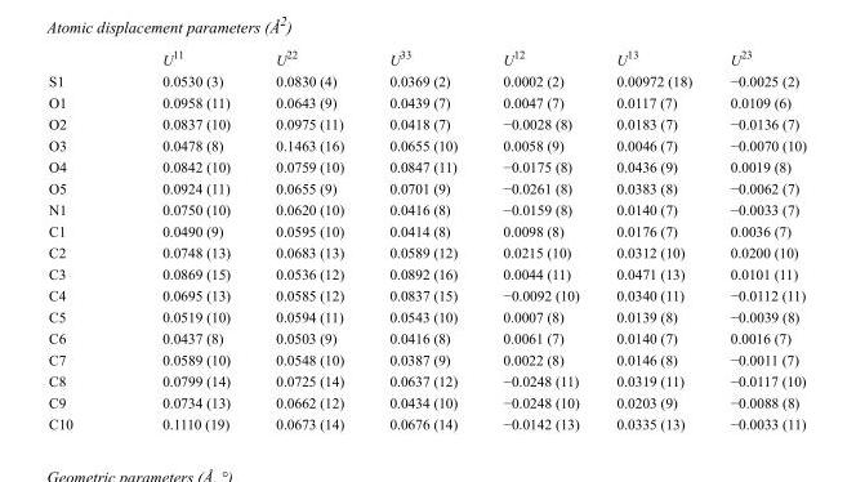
<table><thead><tr><td></td><td>U<sup>11</sup></td><td>U<sup>22</sup></td><td>U<sup>33</sup></td><td>U<sup>12</sup></td><td>U<sup>13</sup></td><td>U<sup>23</sup></td></tr></thead><tbody><tr><td>S1</td><td>0.0530 (3)</td><td>0.0830 (4)</td><td>0.0369 (2)</td><td>0.0002 (2)</td><td>0.00972 (18)</td><td>−0.0025 (2)</td></tr><tr><td>O1</td><td>0.0958 (11)</td><td>0.0643 (9)</td><td>0.0439 (7)</td><td>0.0047 (7)</td><td>0.0117 (7)</td><td>0.0109 (6)</td></tr><tr><td>O2</td><td>0.0837 (10)</td><td>0.0975 (11)</td><td>0.0418 (7)</td><td>−0.0028 (8)</td><td>0.0183 (7)</td><td>−0.0136 (7)</td></tr><tr><td>O3</td><td>0.0478 (8)</td><td>0.1463 (16)</td><td>0.0655 (10)</td><td>0.0058 (9)</td><td>0.0046 (7)</td><td>−0.0070 (10)</td></tr><tr><td>O4</td><td>0.0842 (10)</td><td>0.0759 (10)</td><td>0.0847 (11)</td><td>−0.0175 (8)</td><td>0.0436 (9)</td><td>0.0019 (8)</td></tr><tr><td>O5</td><td>0.0924 (11)</td><td>0.0655 (9)</td><td>0.0701 (9)</td><td>−0.0261 (8)</td><td>0.0383 (8)</td><td>−0.0062 (7)</td></tr><tr><td>N1</td><td>0.0750 (10)</td><td>0.0620 (10)</td><td>0.0416 (8)</td><td>−0.0159 (8)</td><td>0.0140 (7)</td><td>−0.0033 (7)</td></tr><tr><td>C1</td><td>0.0490 (9)</td><td>0.0595 (10)</td><td>0.0414 (8)</td><td>0.0098 (8)</td><td>0.0176 (7)</td><td>0.0036 (7)</td></tr><tr><td>C2</td><td>0.0748 (13)</td><td>0.0683 (13)</td><td>0.0589 (12)</td><td>0.0215 (10)</td><td>0.0312 (10)</td><td>0.0200 (10)</td></tr><tr><td>C3</td><td>0.0869 (15)</td><td>0.0536 (12)</td><td>0.0892 (16)</td><td>0.0044 (11)</td><td>0.0471 (13)</td><td>0.0101 (11)</td></tr><tr><td>C4</td><td>0.0695 (13)</td><td>0.0585 (12)</td><td>0.0837 (15)</td><td>−0.0092 (10)</td><td>0.0340 (11)</td><td>−0.0112 (11)</td></tr><tr><td>C5</td><td>0.0519 (10)</td><td>0.0594 (11)</td><td>0.0543 (10)</td><td>0.0007 (8)</td><td>0.0139 (8)</td><td>−0.0039 (8)</td></tr><tr><td>C6</td><td>0.0437 (8)</td><td>0.0503 (9)</td><td>0.0416 (8)</td><td>0.0061 (7)</td><td>0.0140 (7)</td><td>0.0016 (7)</td></tr><tr><td>C7</td><td>0.0589 (10)</td><td>0.0548 (10)</td><td>0.0387 (9)</td><td>0.0022 (8)</td><td>0.0146 (8)</td><td>−0.0011 (7)</td></tr><tr><td>C8</td><td>0.0799 (14)</td><td>0.0725 (14)</td><td>0.0637 (12)</td><td>−0.0248 (11)</td><td>0.0319 (11)</td><td>−0.0117 (10)</td></tr><tr><td>C9</td><td>0.0734 (13)</td><td>0.0662 (12)</td><td>0.0434 (10)</td><td>−0.0248 (10)</td><td>0.0203 (9)</td><td>−0.0088 (8)</td></tr><tr><td>C10</td><td>0.1110 (19)</td><td>0.0673 (14)</td><td>0.0676 (14)</td><td>−0.0142 (13)</td><td>0.0335 (13)</td><td>−0.0033 (11)</td></tr></tbody></table>